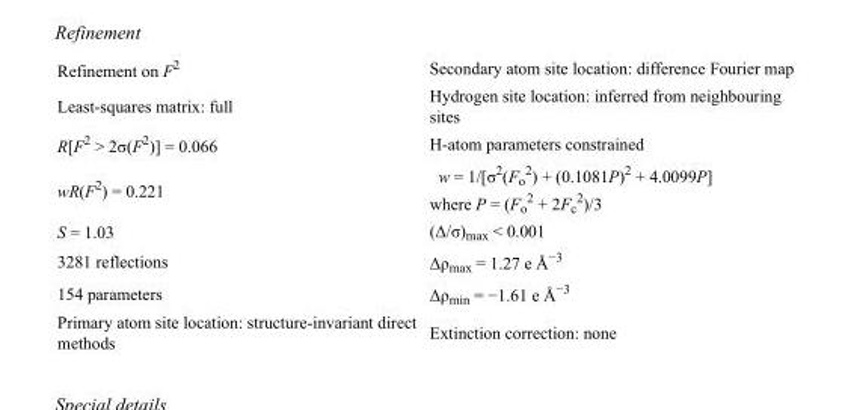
<table><tbody><tr><td>Refinement on F<sup>2</sup></td><td>Secondary atom site location: difference Fourier map</td></tr><tr><td>Least-squares matrix: full</td><td>Hydrogen site location: inferred from neighbouring sites</td></tr><tr><td>R[F<sup>2</sup> &gt; 2σ(F<sup>2</sup>)] = 0.066</td><td>H-atom parameters constrained</td></tr><tr><td>wR(F<sup>2</sup>) = 0.221</td><td>w = 1/[σ<sup>2</sup>(F<sub>o</sub> <sup>2</sup>) + (0.1081P)<sup>2</sup> + 4.0099P] where P = (F<sub>o</sub> <sup>2</sup> + 2F<sub>c</sub> <sup>2</sup>)/3</td></tr><tr><td>S = 1.03</td><td>(Δ/σ)<sub>max</sub> &lt; 0.001</td></tr><tr><td>3281 reflections</td><td>Δρ<sub>max</sub> = 1.27 e Å<sup>−3</sup></td></tr><tr><td>154 parameters</td><td>Δρ<sub>min</sub> = −1.61 e Å<sup>−3</sup></td></tr><tr><td>Primary atom site location: structure-invariant direct methods</td><td>Extinction correction: none</td></tr></tbody></table>